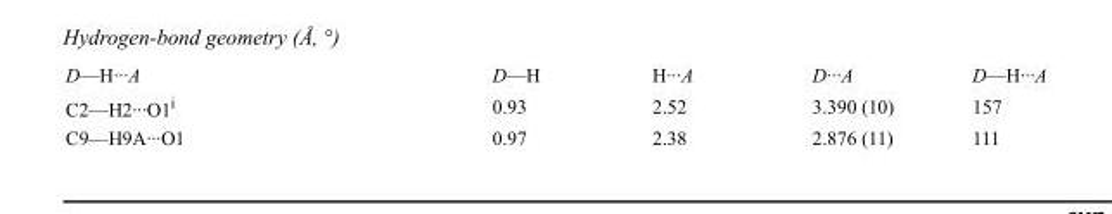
<table><tbody><tr><td>D—H···A</td><td>D—H</td><td>H···A</td><td>D···A</td><td>D—H···A</td></tr><tr><td>C2—H2···O1<sup>i</sup></td><td>0.93</td><td>2.52</td><td>3.390 (10)</td><td>157</td></tr><tr><td>C9—H9A···O1</td><td>0.97</td><td>2.38</td><td>2.876 (11)</td><td>111</td></tr></tbody></table>